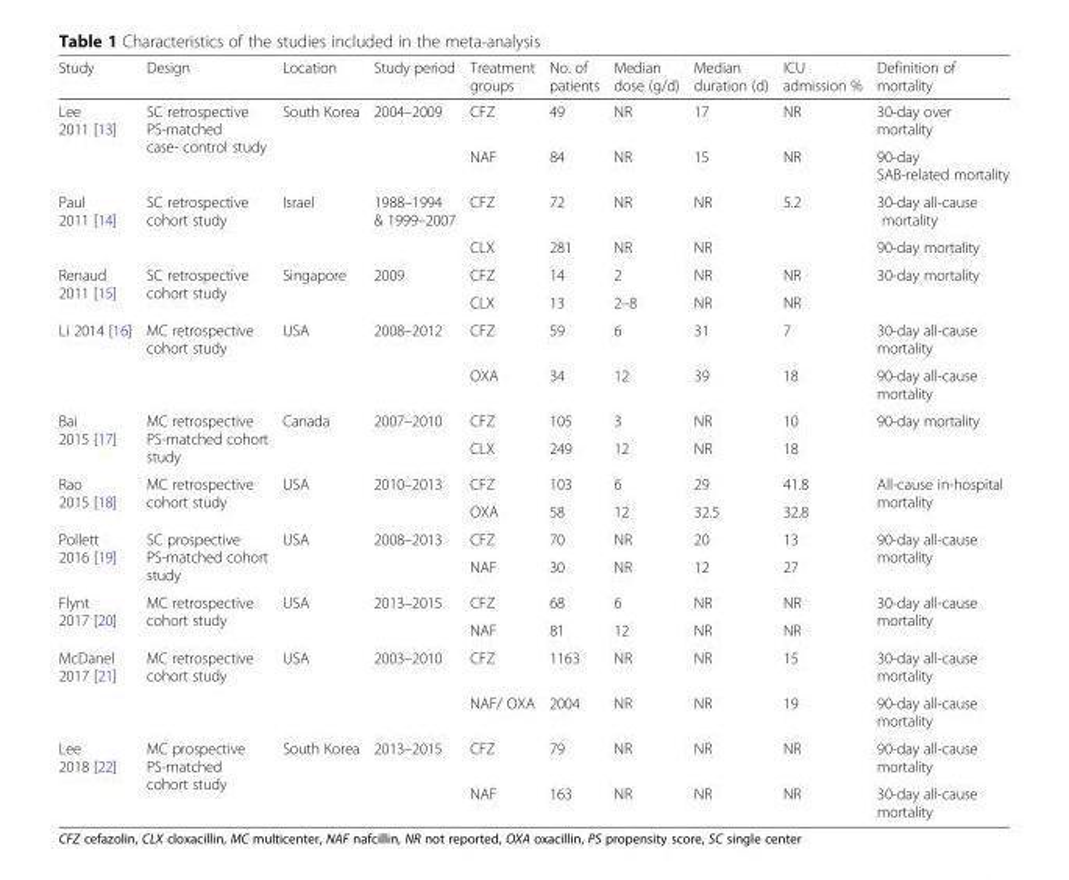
<table><thead><tr><td>Study</td><td>Design</td><td>Location</td><td>Study period</td><td>Treatment groups</td><td>No. of patients</td><td>Median dose (g/d)</td><td>Median duration (d)</td><td>ICU admission %</td><td>Definition of mortality</td></tr></thead><tbody><tr><td rowspan="2">Lee 2011 [13]</td><td rowspan="2">SC retrospective PS-matched case- control study</td><td rowspan="2">South Korea</td><td rowspan="2">2004–2009</td><td>CFZ</td><td>49</td><td>NR</td><td>17</td><td>NR</td><td>30-day over mortality</td></tr><tr><td>NAF</td><td>84</td><td>NR</td><td>15</td><td>NR</td><td>90-day SAB-related mortality</td></tr><tr><td rowspan="2">Paul 2011 [14]</td><td rowspan="2">SC retrospective cohort study</td><td rowspan="2">Israel</td><td rowspan="2">1988–1994 &amp; 1999–2007</td><td>CFZ</td><td>72</td><td>NR</td><td>NR</td><td rowspan="2">5.2</td><td>30-day all-cause mortality</td></tr><tr><td>CLX</td><td>281</td><td>NR</td><td>NR</td><td>90-day mortality</td></tr><tr><td rowspan="2">Renaud 2011 [15]</td><td rowspan="2">SC retrospective cohort study</td><td rowspan="2">Singapore</td><td rowspan="2">2009</td><td>CFZ</td><td>14</td><td>2</td><td>NR</td><td>NR</td><td rowspan="2">30-day mortality</td></tr><tr><td>CLX</td><td>13</td><td>2–8</td><td>NR</td><td>NR</td></tr><tr><td rowspan="2">Li 2014 [16]</td><td rowspan="2">MC retrospective cohort study</td><td rowspan="2">USA</td><td rowspan="2">2008–2012</td><td>CFZ</td><td>59</td><td>6</td><td>31</td><td>7</td><td>30-day all-cause mortality</td></tr><tr><td>OXA</td><td>34</td><td>12</td><td>39</td><td>18</td><td>90-day all-cause mortality</td></tr><tr><td rowspan="2">Bai 2015 [17]</td><td rowspan="2">MC retrospective PS-matched cohort study</td><td rowspan="2">Canada</td><td rowspan="2">2007–2010</td><td>CFZ</td><td>105</td><td>3</td><td>NR</td><td>10</td><td rowspan="2">90-day mortality</td></tr><tr><td>CLX</td><td>249</td><td>12</td><td>NR</td><td>18</td></tr><tr><td rowspan="2">Rao 2015 [18]</td><td rowspan="2">MC retrospective cohort study</td><td rowspan="2">USA</td><td rowspan="2">2010–2013</td><td>CFZ</td><td>103</td><td>6</td><td>29</td><td>41.8</td><td rowspan="2">All-cause in-hospital mortality</td></tr><tr><td>OXA</td><td>58</td><td>12</td><td>32.5</td><td>32.8</td></tr><tr><td rowspan="2">Pollett 2016 [19]</td><td rowspan="2">SC prospective PS-matched cohort study</td><td rowspan="2">USA</td><td rowspan="2">2008–2013</td><td>CFZ</td><td>70</td><td>NR</td><td>20</td><td>13</td><td rowspan="2">90-day all-cause mortality</td></tr><tr><td>NAF</td><td>30</td><td>NR</td><td>12</td><td>27</td></tr><tr><td rowspan="2">Flynt 2017 [20]</td><td rowspan="2">MC retrospective cohort study</td><td rowspan="2">USA</td><td rowspan="2">2013–2015</td><td>CFZ</td><td>68</td><td>6</td><td>NR</td><td>NR</td><td rowspan="2">30-day all-cause mortality</td></tr><tr><td>NAF</td><td>81</td><td>12</td><td>NR</td><td>NR</td></tr><tr><td rowspan="2">McDanel 2017 [21]</td><td rowspan="2">MC retrospective cohort study</td><td rowspan="2">USA</td><td rowspan="2">2003–2010</td><td>CFZ</td><td>1163</td><td>NR</td><td>NR</td><td>15</td><td>30-day all-cause mortality</td></tr><tr><td>NAF/ OXA</td><td>2004</td><td>NR</td><td>NR</td><td>19</td><td>90-day all-cause mortality</td></tr><tr><td rowspan="2">Lee 2018 [22]</td><td rowspan="2">MC prospective PS-matched cohort study</td><td rowspan="2">South Korea</td><td rowspan="2">2013–2015</td><td>CFZ</td><td>79</td><td>NR</td><td>NR</td><td>NR</td><td>90-day all-cause mortality</td></tr><tr><td>NAF</td><td>163</td><td>NR</td><td>NR</td><td>NR</td><td>30-day all-cause mortality</td></tr></tbody></table>